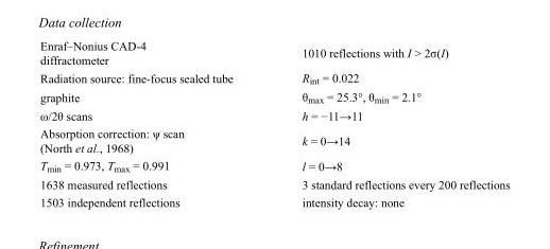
<table><tbody><tr><td>Enraf–Nonius CAD-4 diffractometer</td><td>1010 reflections with I &gt; 2σ(I)</td></tr><tr><td>Radiation source: fine-focus sealed tube</td><td>R<sub>int</sub> = 0.022</td></tr><tr><td>graphite</td><td>θ<sub>max</sub> = 25.3°, θ<sub>min</sub> = 2.1°</td></tr><tr><td>ω/2θ scans</td><td>h = −11→11</td></tr><tr><td>Absorption correction: ψ scan (North et al., 1968)</td><td>k = 0→14</td></tr><tr><td>T<sub>min</sub> = 0.973, T<sub>max</sub> = 0.991</td><td>l = 0→8</td></tr><tr><td>1638 measured reflections</td><td>3 standard reflections every 200 reflections</td></tr><tr><td>1503 independent reflections</td><td>intensity decay: none</td></tr></tbody></table>